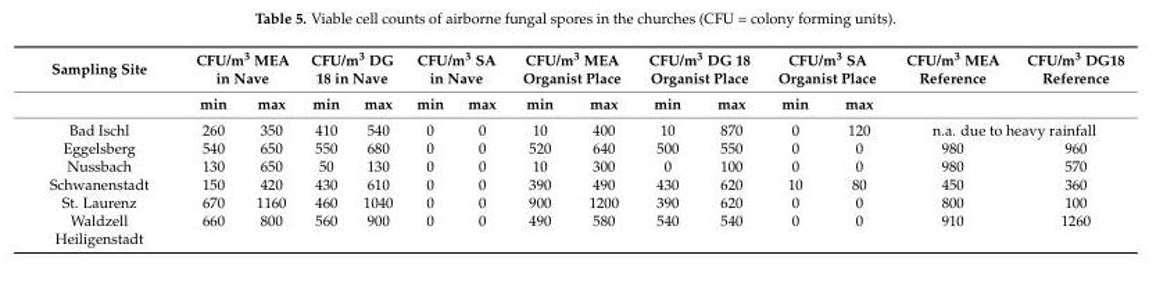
<table><thead><tr><td rowspan="2">Sampling Site</td><td colspan="2">CFU/m<sup>3</sup> MEA in Nave</td><td colspan="2">CFU/m<sup>3</sup> DG 18 in Nave</td><td colspan="2">CFU/m<sup>3</sup> SA in Nave</td><td colspan="2">CFU/m<sup>3</sup> MEA Organist Place</td><td colspan="2">CFU/m<sup>3</sup> DG 18 Organist Place</td><td colspan="2">CFU/m<sup>3</sup> SA Organist Place</td><td rowspan="2">CFU/m<sup>3</sup> MEA Reference</td><td rowspan="2">CFU/m<sup>3</sup> DG18 Reference</td></tr><tr><td>min</td><td>max</td><td>min</td><td>max</td><td>min</td><td>max</td><td>min</td><td>max</td><td>min</td><td>max</td><td>min</td><td>max</td></tr></thead><tbody><tr><td>Bad Ischl</td><td>260</td><td>350</td><td>410</td><td>540</td><td>0</td><td>0</td><td>10</td><td>400</td><td>10</td><td>870</td><td>0</td><td>120</td><td colspan="2">n.a. due to heavy rainfall</td></tr><tr><td>Eggelsberg</td><td>540</td><td>650</td><td>550</td><td>680</td><td>0</td><td>0</td><td>520</td><td>640</td><td>500</td><td>550</td><td>0</td><td>0</td><td>980</td><td>960</td></tr><tr><td>Nussbach</td><td>130</td><td>650</td><td>50</td><td>130</td><td>0</td><td>0</td><td>10</td><td>300</td><td>0</td><td>100</td><td>0</td><td>0</td><td>980</td><td>570</td></tr><tr><td>Schwanenstadt</td><td>150</td><td>420</td><td>430</td><td>610</td><td>0</td><td>0</td><td>390</td><td>490</td><td>430</td><td>620</td><td>10</td><td>80</td><td>450</td><td>360</td></tr><tr><td>St. Laurenz</td><td>670</td><td>1160</td><td>460</td><td>1040</td><td>0</td><td>0</td><td>900</td><td>1200</td><td>390</td><td>620</td><td>0</td><td>0</td><td>800</td><td>100</td></tr><tr><td>Waldzell</td><td>660</td><td>800</td><td>560</td><td>900</td><td>0</td><td>0</td><td>490</td><td>580</td><td>540</td><td>540</td><td>0</td><td>0</td><td>910</td><td>1260</td></tr><tr><td>Heiligenstadt</td><td colspan="2"></td><td></td><td></td><td></td><td></td><td></td><td></td><td></td><td></td><td></td><td></td><td></td><td></td></tr></tbody></table>